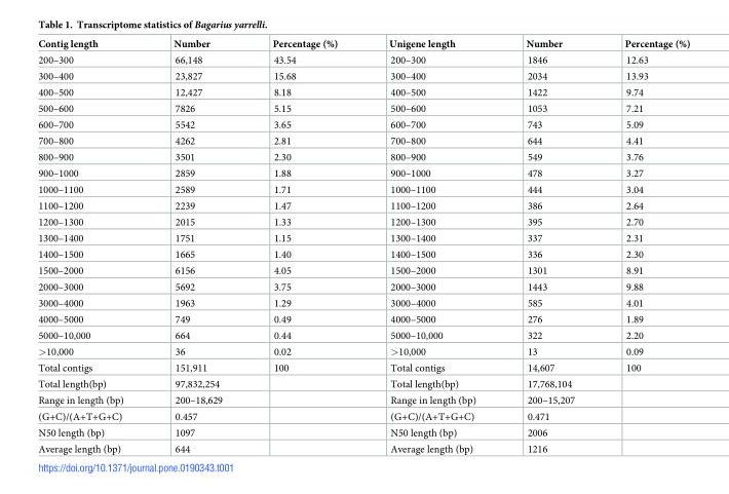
<table><thead><tr><td>Contig length</td><td>Number</td><td>Percentage (%)</td><td>Unigene length</td><td>Number</td><td>Percentage (%)</td></tr></thead><tbody><tr><td>200–300</td><td>66,148</td><td>43.54</td><td>200–300</td><td>1846</td><td>12.63</td></tr><tr><td>300–400</td><td>23,827</td><td>15.68</td><td>300–400</td><td>2034</td><td>13.93</td></tr><tr><td>400–500</td><td>12,427</td><td>8.18</td><td>400–500</td><td>1422</td><td>9.74</td></tr><tr><td>500–600</td><td>7826</td><td>5.15</td><td>500–600</td><td>1053</td><td>7.21</td></tr><tr><td>600–700</td><td>5542</td><td>3.65</td><td>600–700</td><td>743</td><td>5.09</td></tr><tr><td>700–800</td><td>4262</td><td>2.81</td><td>700–800</td><td>644</td><td>4.41</td></tr><tr><td>800–900</td><td>3501</td><td>2.30</td><td>800–900</td><td>549</td><td>3.76</td></tr><tr><td>900–1000</td><td>2859</td><td>1.88</td><td>900–1000</td><td>478</td><td>3.27</td></tr><tr><td>1000–1100</td><td>2589</td><td>1.71</td><td>1000–1100</td><td>444</td><td>3.04</td></tr><tr><td>1100–1200</td><td>2239</td><td>1.47</td><td>1100–1200</td><td>386</td><td>2.64</td></tr><tr><td>1200–1300</td><td>2015</td><td>1.33</td><td>1200–1300</td><td>395</td><td>2.70</td></tr><tr><td>1300–1400</td><td>1751</td><td>1.15</td><td>1300–1400</td><td>337</td><td>2.31</td></tr><tr><td>1400–1500</td><td>1665</td><td>1.40</td><td>1400–1500</td><td>336</td><td>2.30</td></tr><tr><td>1500–2000</td><td>6156</td><td>4.05</td><td>1500–2000</td><td>1301</td><td>8.91</td></tr><tr><td>2000–3000</td><td>5692</td><td>3.75</td><td>2000–3000</td><td>1443</td><td>9.88</td></tr><tr><td>3000–4000</td><td>1963</td><td>1.29</td><td>3000–4000</td><td>585</td><td>4.01</td></tr><tr><td>4000–5000</td><td>749</td><td>0.49</td><td>4000–5000</td><td>276</td><td>1.89</td></tr><tr><td>5000–10,000</td><td>664</td><td>0.44</td><td>5000–10,000</td><td>322</td><td>2.20</td></tr><tr><td>&gt;10,000</td><td>36</td><td>0.02</td><td>&gt;10,000</td><td>13</td><td>0.09</td></tr><tr><td>Total contigs</td><td>151,911</td><td>100</td><td>Total contigs</td><td>14,607</td><td>100</td></tr><tr><td>Total length(bp)</td><td>97,832,254</td><td></td><td>Total length(bp)</td><td>17,768,104</td><td></td></tr><tr><td>Range in length (bp)</td><td>200–18,629</td><td></td><td>Range in length (bp)</td><td>200–15,207</td><td></td></tr><tr><td>(G+C)/(A+T+G+C)</td><td>0.457</td><td></td><td>(G+C)/(A+T+G+C)</td><td>0.471</td><td></td></tr><tr><td>N50 length (bp)</td><td>1097</td><td></td><td>N50 length (bp)</td><td>2006</td><td></td></tr><tr><td>Average length (bp)</td><td>644</td><td></td><td>Average length (bp)</td><td>1216</td><td></td></tr></tbody></table>